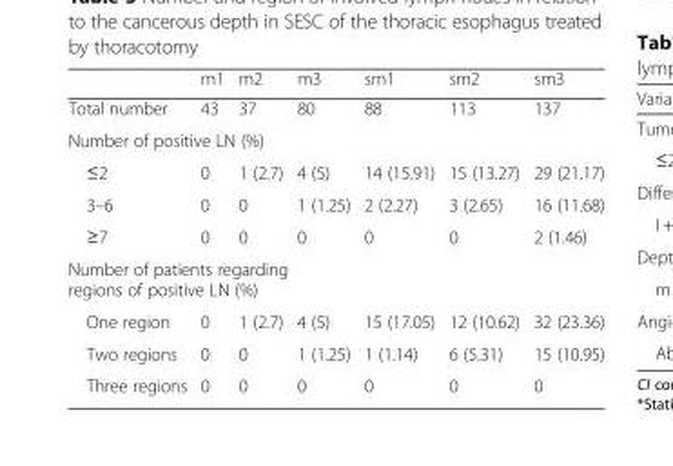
<table><thead><tr><td></td><td>m1</td><td>m2</td><td>m3</td><td>sm1</td><td>sm2</td><td>sm3</td></tr></thead><tbody><tr><td>Total number</td><td>43</td><td>37</td><td>80</td><td>88</td><td>113</td><td>137</td></tr><tr><td colspan="7">Number of positive LN (%)</td></tr><tr><td>≤2</td><td>0</td><td>1 (2.7)</td><td>4 (5)</td><td>14 (15.91)</td><td>15 (13.27)</td><td>29 (21.17)</td></tr><tr><td>3–6</td><td>0</td><td>0</td><td>1 (1.25)</td><td>2 (2.27)</td><td>3 (2.65)</td><td>16 (11.68)</td></tr><tr><td>≥7</td><td>0</td><td>0</td><td>0</td><td>0</td><td>0</td><td>2 (1.46)</td></tr><tr><td colspan="7">Number of patients regarding regions of positive LN (%)</td></tr><tr><td>One region</td><td>0</td><td>1 (2.7)</td><td>4 (5)</td><td>15 (17.05)</td><td>12 (10.62)</td><td>32 (23.36)</td></tr><tr><td>Two regions</td><td>0</td><td>0</td><td>1 (1.25)</td><td>1 (1.14)</td><td>6 (5.31)</td><td>15 (10.95)</td></tr><tr><td>Three regions</td><td>0</td><td>0</td><td>0</td><td>0</td><td>0</td><td>0</td></tr></tbody></table>